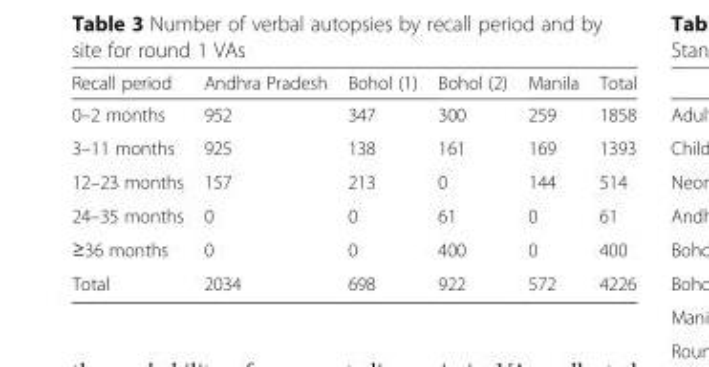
<table><thead><tr><td>Recall period</td><td>Andhra Pradesh</td><td>Bohol (1)</td><td>Bohol (2)</td><td>Manila</td><td>Total</td></tr></thead><tbody><tr><td>0–2 months</td><td>952</td><td>347</td><td>300</td><td>259</td><td>1858</td></tr><tr><td>3–11 months</td><td>925</td><td>138</td><td>161</td><td>169</td><td>1393</td></tr><tr><td>12–23 months</td><td>157</td><td>213</td><td>0</td><td>144</td><td>514</td></tr><tr><td>24–35 months</td><td>0</td><td>0</td><td>61</td><td>0</td><td>61</td></tr><tr><td>≥36 months</td><td>0</td><td>0</td><td>400</td><td>0</td><td>400</td></tr><tr><td>Total</td><td>2034</td><td>698</td><td>922</td><td>572</td><td>4226</td></tr></tbody></table>